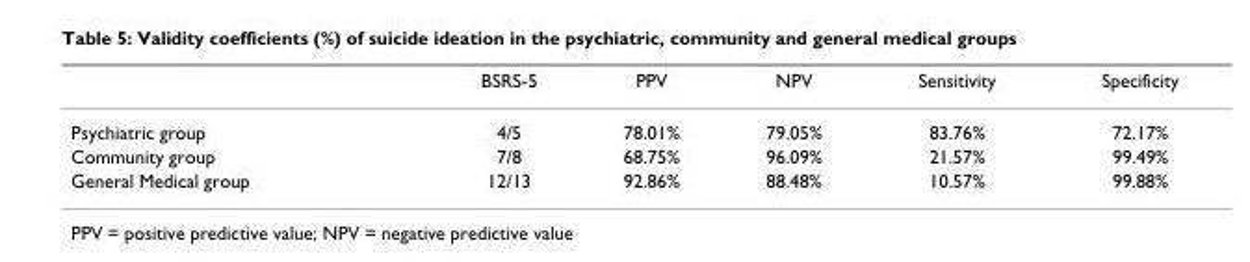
<table><thead><tr><td></td><td>BSRS-5</td><td>PPV</td><td>NPV</td><td>Sensitivity</td><td>Specificity</td></tr></thead><tbody><tr><td>Psychiatric group</td><td>4/5</td><td>78.01%</td><td>79.05%</td><td>83.76%</td><td>72.17%</td></tr><tr><td>Community group</td><td>7/8</td><td>68.75%</td><td>96.09%</td><td>21.57%</td><td>99.49%</td></tr><tr><td>General Medical group</td><td>12/13</td><td>92.86%</td><td>88.48%</td><td>10.57%</td><td>99.88%</td></tr></tbody></table>